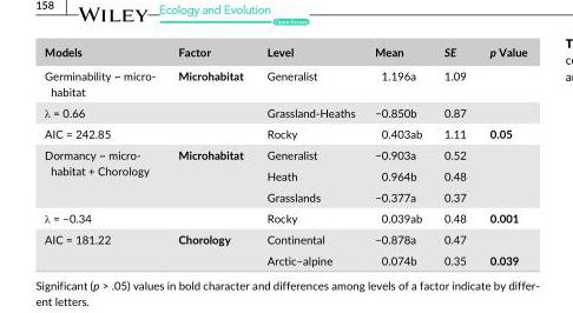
<table><thead><tr><td>Models</td><td>Factor</td><td>Level</td><td>Mean</td><td>SE</td><td>p Value</td></tr></thead><tbody><tr><td>Germinability ~ micro- habitat</td><td>Microhabitat</td><td>Generalist</td><td>1.196a</td><td>1.09</td><td></td></tr><tr><td>λ = 0.66</td><td></td><td>Grassland- Heaths</td><td>−0.850b</td><td>0.87</td><td></td></tr><tr><td>AIC = 242.85</td><td></td><td>Rocky</td><td>0.403ab</td><td>1.11</td><td>0.05</td></tr><tr><td rowspan="3">Dormancy ~ micro- habitat + Chorology</td><td rowspan="3">Microhabitat</td><td>Generalist</td><td>−0.903a</td><td>0.52</td><td></td></tr><tr><td>Heath</td><td>0.964b</td><td>0.48</td><td></td></tr><tr><td>Grasslands</td><td>−0.377a</td><td>0.37</td><td></td></tr><tr><td>λ = −0.34</td><td></td><td>Rocky</td><td>0.039ab</td><td>0.48</td><td>0.001</td></tr><tr><td rowspan="2">AIC = 181.22</td><td rowspan="2">Chorology</td><td>Continental</td><td>−0.878a</td><td>0.47</td><td></td></tr><tr><td>Arctic–alpine</td><td>0.074b</td><td>0.35</td><td>0.039</td></tr></tbody></table>